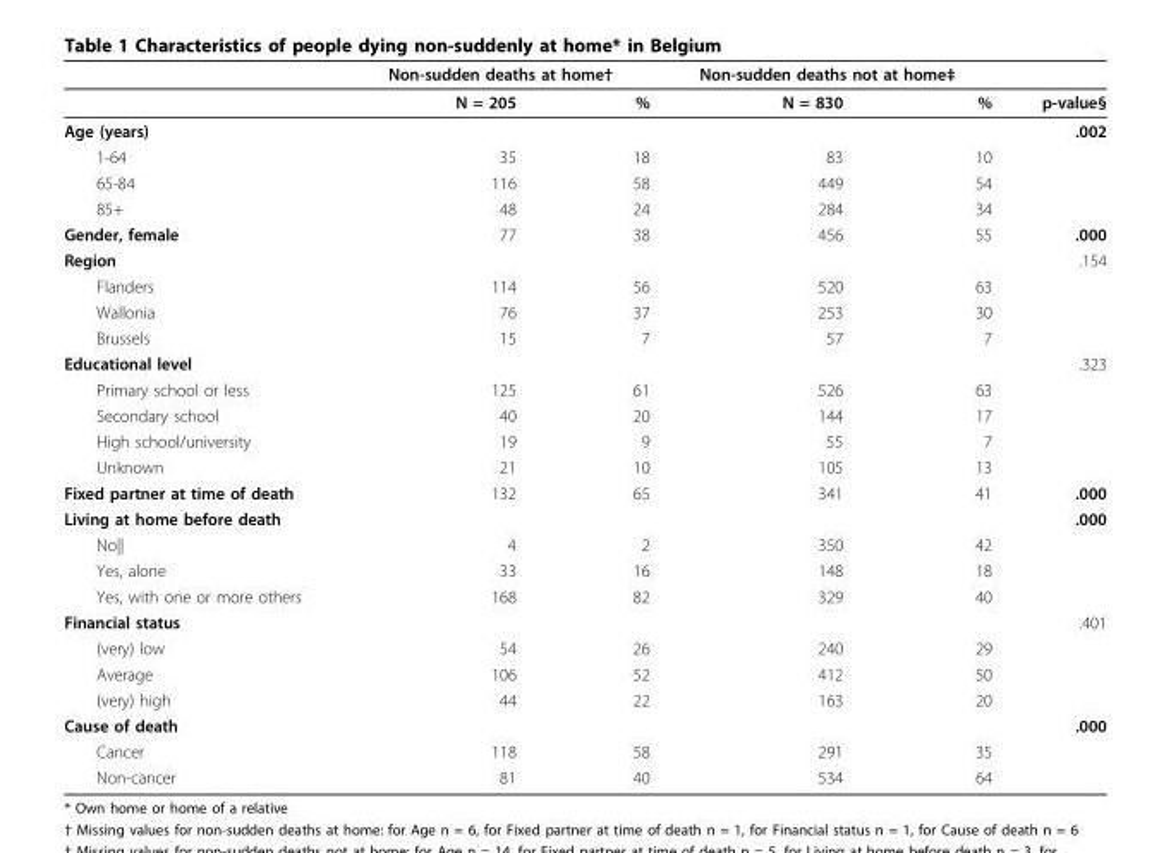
<table><thead><tr><td rowspan="2"></td><td colspan="2">Non-sudden deaths at home†</td><td colspan="2">Non-sudden deaths not at home‡</td><td rowspan="2">p-value§</td></tr><tr><td>N = 205</td><td>%</td><td>N = 830</td><td>%</td></tr></thead><tbody><tr><td>Age (years)</td><td></td><td></td><td></td><td></td><td>.002</td></tr><tr><td>1-64</td><td>35</td><td>18</td><td>83</td><td>10</td><td></td></tr><tr><td>65-84</td><td>116</td><td>58</td><td>449</td><td>54</td><td></td></tr><tr><td>85+</td><td>48</td><td>24</td><td>284</td><td>34</td><td></td></tr><tr><td>Gender, female</td><td>77</td><td>38</td><td>456</td><td>55</td><td>.000</td></tr><tr><td>Region</td><td></td><td></td><td></td><td></td><td>.154</td></tr><tr><td>Flanders</td><td>114</td><td>56</td><td>520</td><td>63</td><td></td></tr><tr><td>Wallonia</td><td>76</td><td>37</td><td>253</td><td>30</td><td></td></tr><tr><td>Brussels</td><td>15</td><td>7</td><td>57</td><td>7</td><td></td></tr><tr><td>Educational level</td><td></td><td></td><td></td><td></td><td>.323</td></tr><tr><td>Primary school or less</td><td>125</td><td>61</td><td>526</td><td>63</td><td></td></tr><tr><td>Secondary school</td><td>40</td><td>20</td><td>144</td><td>17</td><td></td></tr><tr><td>High school/university</td><td>19</td><td>9</td><td>55</td><td>7</td><td></td></tr><tr><td>Unknown</td><td>21</td><td>10</td><td>105</td><td>13</td><td></td></tr><tr><td>Fixed partner at time of death</td><td>132</td><td>65</td><td>341</td><td>41</td><td>.000</td></tr><tr><td>Living at home before death</td><td></td><td></td><td></td><td></td><td>.000</td></tr><tr><td>No||</td><td>4</td><td>2</td><td>350</td><td>42</td><td></td></tr><tr><td>Yes, alone</td><td>33</td><td>16</td><td>148</td><td>18</td><td></td></tr><tr><td>Yes, with one or more others</td><td>168</td><td>82</td><td>329</td><td>40</td><td></td></tr><tr><td>Financial status</td><td></td><td></td><td></td><td></td><td>.401</td></tr><tr><td>(very) low</td><td>54</td><td>26</td><td>240</td><td>29</td><td></td></tr><tr><td>Average</td><td>106</td><td>52</td><td>412</td><td>50</td><td></td></tr><tr><td>(very) high</td><td>44</td><td>22</td><td>163</td><td>20</td><td></td></tr><tr><td>Cause of death</td><td></td><td></td><td></td><td></td><td>.000</td></tr><tr><td>Cancer</td><td>118</td><td>58</td><td>291</td><td>35</td><td></td></tr><tr><td>Non-cancer</td><td>81</td><td>40</td><td>534</td><td>64</td><td></td></tr></tbody></table>